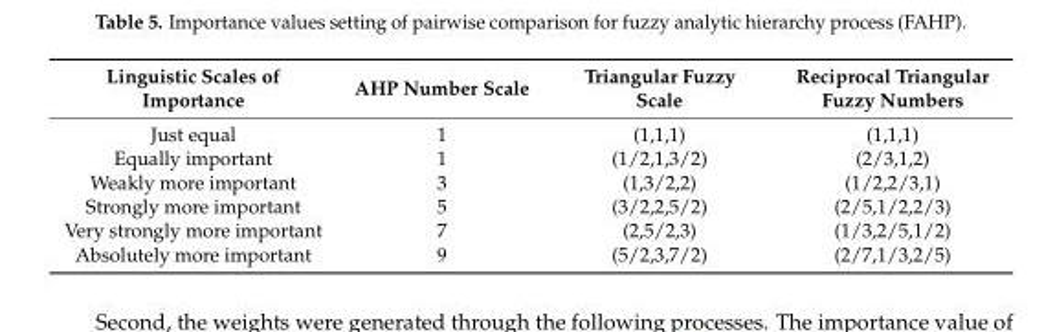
<table><thead><tr><td>Linguistic Scales of Importance</td><td>AHP Number Scale</td><td>Triangular Fuzzy Scale</td><td>Reciprocal Triangular Fuzzy Numbers</td></tr></thead><tbody><tr><td>Just equal</td><td>1</td><td>(1,1,1)</td><td>(1,1,1)</td></tr><tr><td>Equally important</td><td>1</td><td>(1/2,1,3/2)</td><td>(2/3,1,2)</td></tr><tr><td>Weakly more important</td><td>3</td><td>(1,3/2,2)</td><td>(1/2,2/3,1)</td></tr><tr><td>Strongly more important</td><td>5</td><td>(3/2,2,5/2)</td><td>(2/5,1/2,2/3)</td></tr><tr><td>Very strongly more important</td><td>7</td><td>(2,5/2,3)</td><td>(1/3,2/5,1/2)</td></tr><tr><td>Absolutely more important</td><td>9</td><td>(5/2,3,7/2)</td><td>(2/7,1/3,2/5)</td></tr></tbody></table>